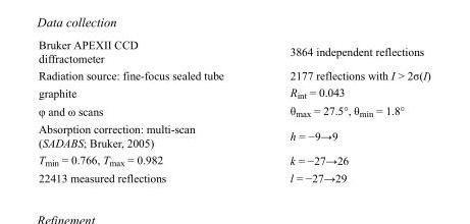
<table><tbody><tr><td>Bruker APEXII CCD diffractometer</td><td>3864 independent reflections</td></tr><tr><td>Radiation source: fine-focus sealed tube</td><td>2177 reflections with I &gt; 2σ(I)</td></tr><tr><td>graphite</td><td>R<sub>int</sub> = 0.043</td></tr><tr><td>φ and ω scans</td><td>θ<sub>max</sub> = 27.5°, θ<sub>min</sub> = 1.8°</td></tr><tr><td>Absorption correction: multi-scan (SADABS; Bruker, 2005)</td><td>h = −9→9</td></tr><tr><td>T<sub>min</sub> = 0.766, T<sub>max</sub> = 0.982</td><td>k = −27→26</td></tr><tr><td>22413 measured reflections</td><td>l = −27→29</td></tr></tbody></table>